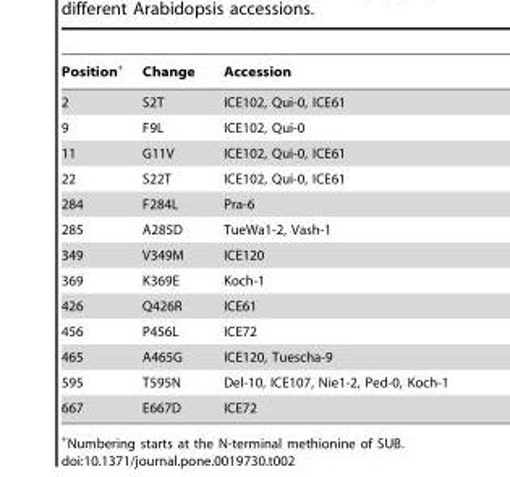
<table><thead><tr><td>Position+</td><td>Change</td><td>Accession</td></tr></thead><tbody><tr><td>2</td><td>S2T</td><td>ICE102, Qui-0, ICE61</td></tr><tr><td>9</td><td>F9L</td><td>ICE102, Qui-0</td></tr><tr><td>11</td><td>G11V</td><td>ICE102, Qui-0, ICE61</td></tr><tr><td>22</td><td>S22T</td><td>ICE102, Qui-0, ICE61</td></tr><tr><td>284</td><td>F284L</td><td>Pra-6</td></tr><tr><td>285</td><td>A285D</td><td>TueWa1-2, Vash-1</td></tr><tr><td>349</td><td>V349M</td><td>ICE120</td></tr><tr><td>369</td><td>K369E</td><td>Koch-1</td></tr><tr><td>426</td><td>Q426R</td><td>ICE61</td></tr><tr><td>456</td><td>P456L</td><td>ICE72</td></tr><tr><td>465</td><td>A465G</td><td>ICE120, Tuescha-9</td></tr><tr><td>595</td><td>T595N</td><td>Del-10, ICE107, Nie1-2, Ped-0, Koch-1</td></tr><tr><td>667</td><td>E667D</td><td>ICE72</td></tr></tbody></table>